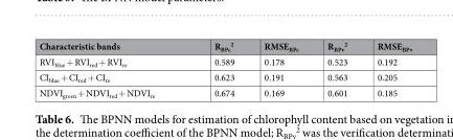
<table><thead><tr><td>Characteristic bands</td><td>R<sub>BPc</sub> <sup>2</sup></td><td>RMSE<sub>BPc</sub></td><td>R<sub>BPv</sub> <sup>2</sup></td><td>RMSE<sub>BPv</sub></td></tr></thead><tbody><tr><td>RVI<sub>blue</sub> + RVI<sub>red</sub> + RVI<sub>re</sub></td><td>0.589</td><td>0.178</td><td>0.523</td><td>0.192</td></tr><tr><td>CI<sub>blue</sub> + CI<sub>red</sub> + CI<sub>re</sub></td><td>0.623</td><td>0.191</td><td>0.563</td><td>0.205</td></tr><tr><td>NDVI<sub>green</sub> + NDVI<sub>red</sub> + NDVI<sub>re</sub></td><td>0.674</td><td>0.169</td><td>0.601</td><td>0.185</td></tr></tbody></table>